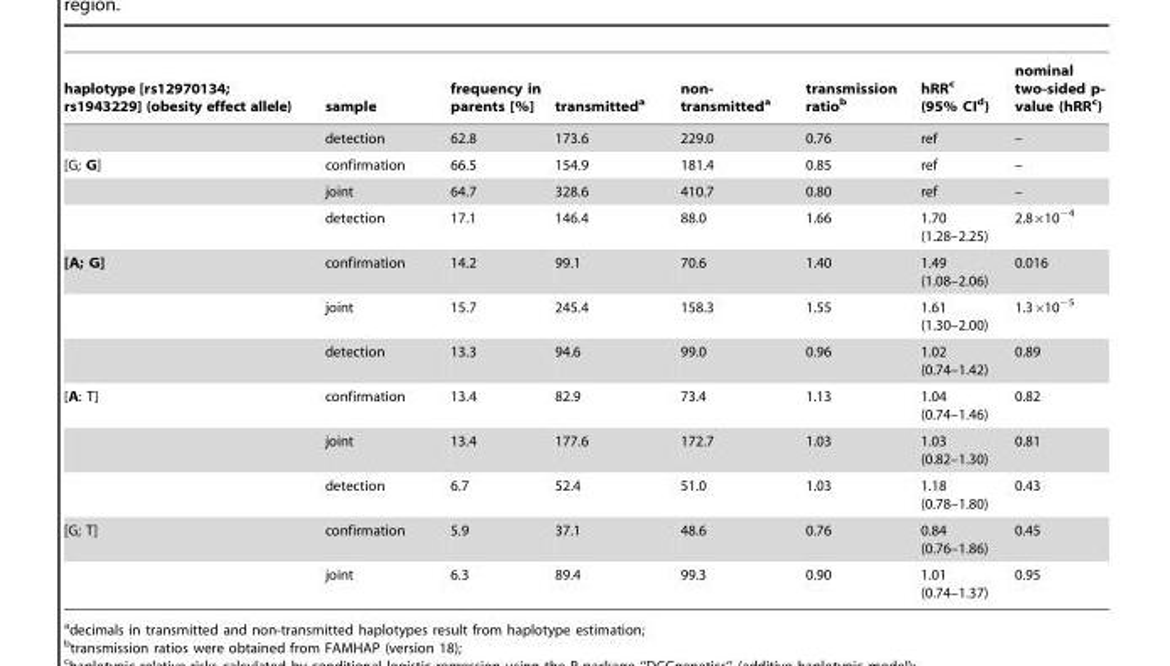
<table><thead><tr><td>haplotype [rs12970134; rs1943229] (obesity effect allele)</td><td>sample</td><td>frequency in parents [%]</td><td>transmitted<sup>a</sup></td><td>non- transmitted<sup>a</sup></td><td>transmission ratio<sup>b</sup></td><td>hRR<sup>c</sup> (95% CI<sup>d</sup>)</td><td>nominal two-sided p- value (hRR<sup>c</sup>)</td></tr></thead><tbody><tr><td></td><td>detection</td><td>62.8</td><td>173.6</td><td>229.0</td><td>0.76</td><td>ref</td><td>–</td></tr><tr><td rowspan="3">[G; G]</td><td>confirmation</td><td>66.5</td><td>154.9</td><td>181.4</td><td>0.85</td><td>ref</td><td>–</td></tr><tr><td>joint</td><td>64.7</td><td>328.6</td><td>410.7</td><td>0.80</td><td>ref</td><td>–</td></tr><tr><td>detection</td><td>17.1</td><td>146.4</td><td>88.0</td><td>1.66</td><td>1.70 (1.28–2.25)</td><td>2.8×10<sup>−4</sup></td></tr><tr><td rowspan="3">[A; G]</td><td>confirmation</td><td>14.2</td><td>99.1</td><td>70.6</td><td>1.40</td><td>1.49 (1.08–2.06)</td><td>0.016</td></tr><tr><td>joint</td><td>15.7</td><td>245.4</td><td>158.3</td><td>1.55</td><td>1.61 (1.30–2.00)</td><td>1.3×10<sup>−5</sup></td></tr><tr><td>detection</td><td>13.3</td><td>94.6</td><td>99.0</td><td>0.96</td><td>1.02 (0.74–1.42)</td><td>0.89</td></tr><tr><td rowspan="3">[A: T]</td><td>confirmation</td><td>13.4</td><td>82.9</td><td>73.4</td><td>1.13</td><td>1.04 (0.74–1.46)</td><td>0.82</td></tr><tr><td>joint</td><td>13.4</td><td>177.6</td><td>172.7</td><td>1.03</td><td>1.03 (0.82–1.30)</td><td>0.81</td></tr><tr><td>detection</td><td>6.7</td><td>52.4</td><td>51.0</td><td>1.03</td><td>1.18 (0.78–1.80)</td><td>0.43</td></tr><tr><td rowspan="2">[G; T]</td><td>confirmation</td><td>5.9</td><td>37.1</td><td>48.6</td><td>0.76</td><td>0.84 (0.76–1.86)</td><td>0.45</td></tr><tr><td>joint</td><td>6.3</td><td>89.4</td><td>99.3</td><td>0.90</td><td>1.01 (0.74–1.37)</td><td>0.95</td></tr></tbody></table>